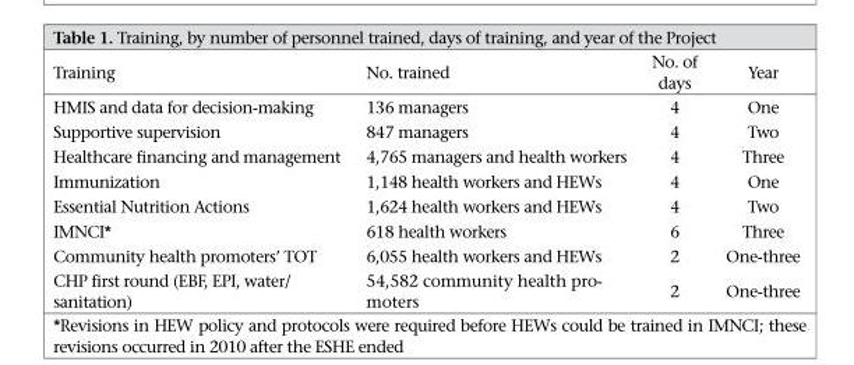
<table><thead><tr><td>Training</td><td>No. trained</td><td>No. of days</td><td>Year</td></tr></thead><tbody><tr><td>HMIS and data for decision-making</td><td>136 managers</td><td>4</td><td>One</td></tr><tr><td>Supportive supervision</td><td>847 managers</td><td>4</td><td>Two</td></tr><tr><td>Healthcare financing and management</td><td>4,765 managers and health workers</td><td>4</td><td>Three</td></tr><tr><td>Immunization</td><td>1,148 health workers and HEWs</td><td>4</td><td>One</td></tr><tr><td>Essential Nutrition Actions</td><td>1,624 health workers and HEWs</td><td>4</td><td>Two</td></tr><tr><td>IMNCI*</td><td>618 health workers</td><td>6</td><td>Three</td></tr><tr><td>Community health promoters’ TOT</td><td>6,055 health workers and HEWs</td><td>2</td><td>One-three</td></tr><tr><td>CHP first round (EBF, EPI, water/ sanitation)</td><td>54,582 community health pro- moters</td><td>2</td><td>One-three</td></tr></tbody></table>